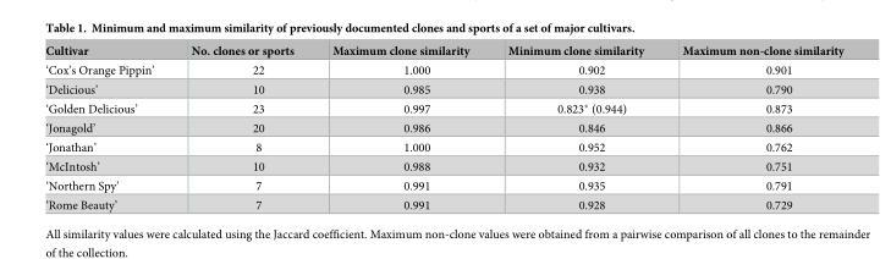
<table><thead><tr><td>Cultivar</td><td>No. clones or sports</td><td>Maximum clone similarity</td><td>Minimum clone similarity</td><td>Maximum non-clone similarity</td></tr></thead><tbody><tr><td>‘Cox’s Orange Pippin’</td><td>22</td><td>1.000</td><td>0.902</td><td>0.901</td></tr><tr><td>‘Delicious’</td><td>10</td><td>0.985</td><td>0.938</td><td>0.790</td></tr><tr><td>‘Golden Delicious’</td><td>23</td><td>0.997</td><td>0.823* (0.944)</td><td>0.873</td></tr><tr><td>‘Jonagold’</td><td>20</td><td>0.986</td><td>0.846</td><td>0.866</td></tr><tr><td>‘Jonathan’</td><td>8</td><td>1.000</td><td>0.952</td><td>0.762</td></tr><tr><td>‘McIntosh’</td><td>10</td><td>0.988</td><td>0.932</td><td>0.751</td></tr><tr><td>‘Northern Spy’</td><td>7</td><td>0.991</td><td>0.935</td><td>0.791</td></tr><tr><td>‘Rome Beauty’</td><td>7</td><td>0.991</td><td>0.928</td><td>0.729</td></tr></tbody></table>